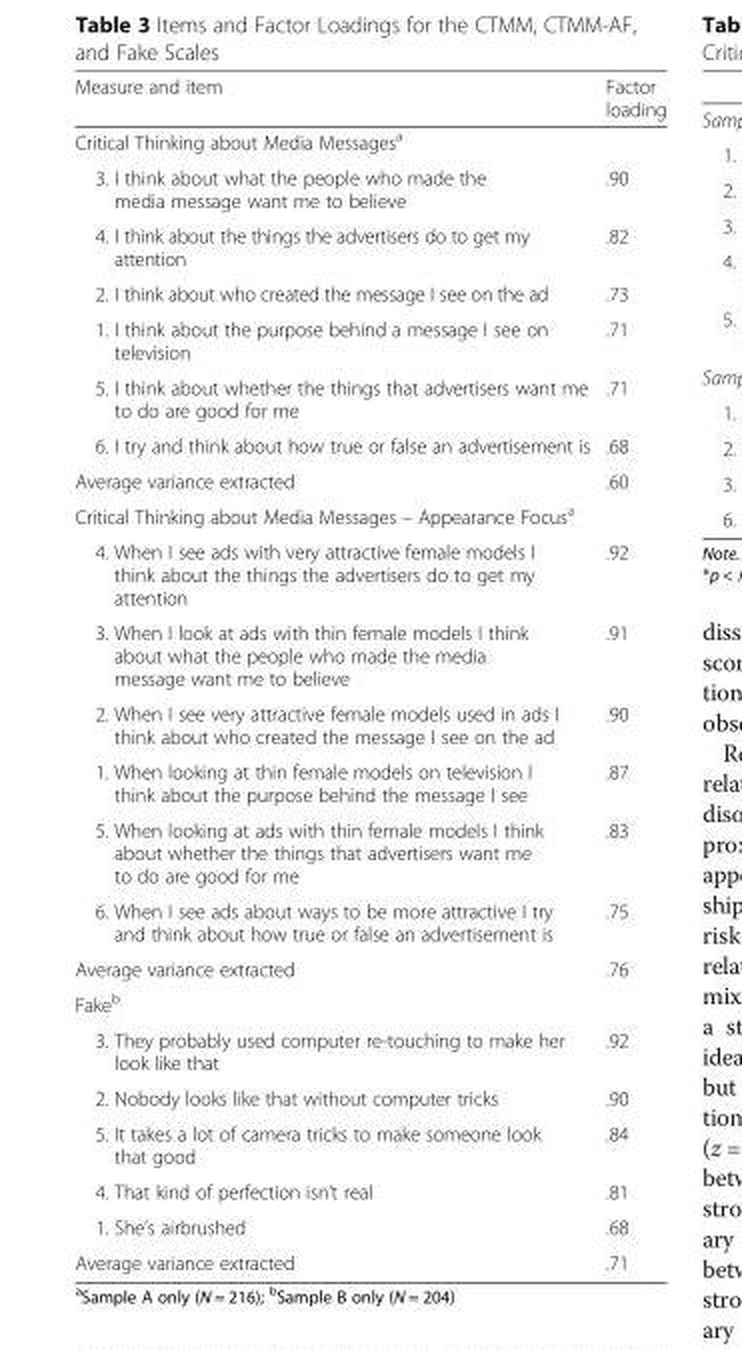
<table><thead><tr><td>Measure and item</td><td>Factor loading</td></tr></thead><tbody><tr><td colspan="2">Critical Thinking about Media Messages<sup>a</sup></td></tr><tr><td>3. I think about what the people who made the media message want me to believe</td><td>.90</td></tr><tr><td>4. I think about the things the advertisers do to get my attention</td><td>.82</td></tr><tr><td>2. I think about who created the message I see on the ad</td><td>.73</td></tr><tr><td>1. I think about the purpose behind a message I see on television</td><td>.71</td></tr><tr><td>5. I think about whether the things that advertisers want me to do are good for me</td><td>.71</td></tr><tr><td>6. I try and think about how true or false an advertisement is</td><td>.68</td></tr><tr><td>Average variance extracted</td><td>.60</td></tr><tr><td colspan="2">Critical Thinking about Media Messages – Appearance Focus<sup>a</sup></td></tr><tr><td>4. When I see ads with very attractive female models I think about the things the advertisers do to get my attention</td><td>.92</td></tr><tr><td>3. When I look at ads with thin female models I think about what the people who made the media message want me to believe</td><td>.91</td></tr><tr><td>2. When I see very attractive female models used in ads I think about who created the message I see on the ad</td><td>.90</td></tr><tr><td>1. When looking at thin female models on television I think about the purpose behind the message I see</td><td>.87</td></tr><tr><td>5. When looking at ads with thin female models I think about whether the things that advertisers want me to do are good for me</td><td>.83</td></tr><tr><td>6. When I see ads about ways to be more attractive I try and think about how true or false an advertisement is</td><td>.75</td></tr><tr><td>Average variance extracted</td><td>.76</td></tr><tr><td colspan="2">Fake<sup>b</sup></td></tr><tr><td>3. They probably used computer re-touching to make her look like that</td><td>.92</td></tr><tr><td>2. Nobody looks like that without computer tricks</td><td>.90</td></tr><tr><td>5. It takes a lot of camera tricks to make someone look that good</td><td>.84</td></tr><tr><td>4. That kind of perfection isn’t real</td><td>.81</td></tr><tr><td>1. She’s airbrushed</td><td>.68</td></tr><tr><td>Average variance extracted</td><td>.71</td></tr></tbody></table>